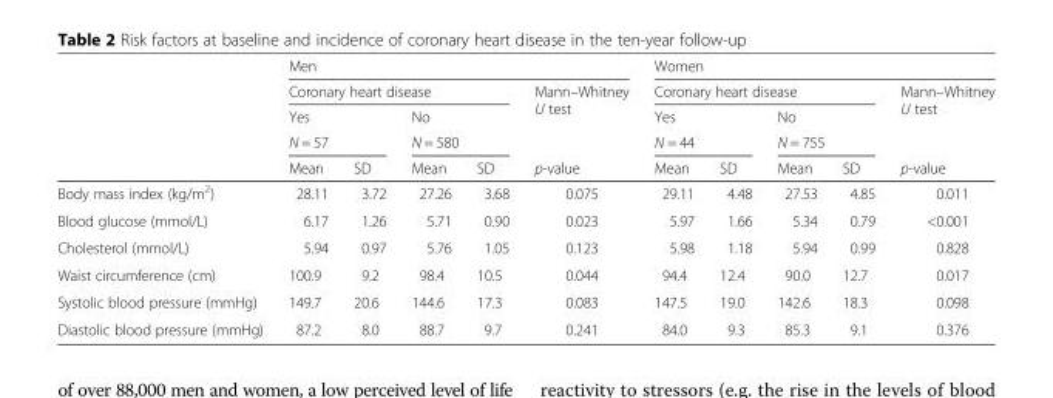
<table><thead><tr><td rowspan="5"></td><td colspan="5">Men</td><td colspan="5">Women</td></tr><tr><td colspan="4">Coronary heart disease</td><td rowspan="4">Mann–Whitney U test p-value</td><td colspan="4">Coronary heart disease</td><td rowspan="4">Mann–Whitney U test p-value</td></tr><tr><td rowspan="2" colspan="2">Yes N = 57</td><td rowspan="2" colspan="2">No N = 580</td><td rowspan="2" colspan="2">Yes N = 44</td><td rowspan="2" colspan="2">No N = 755</td></tr><tr></tr><tr><td>Mean</td><td>SD</td><td>Mean</td><td>SD</td><td>Mean</td><td>SD</td><td>Mean</td><td>SD</td></tr></thead><tbody><tr><td>Body mass index (kg/m<sup>2</sup>)</td><td>28.11</td><td>3.72</td><td>27.26</td><td>3.68</td><td>0.075</td><td>29.11</td><td>4.48</td><td>27.53</td><td>4.85</td><td>0.011</td></tr><tr><td>Blood glucose (mmol/L)</td><td>6.17</td><td>1.26</td><td>5.71</td><td>0.90</td><td>0.023</td><td>5.97</td><td>1.66</td><td>5.34</td><td>0.79</td><td>&lt;0.001</td></tr><tr><td>Cholesterol (mmol/L)</td><td>5.94</td><td>0.97</td><td>5.76</td><td>1.05</td><td>0.123</td><td>5.98</td><td>1.18</td><td>5.94</td><td>0.99</td><td>0.828</td></tr><tr><td>Waist circumference (cm)</td><td>100.9</td><td>9.2</td><td>98.4</td><td>10.5</td><td>0.044</td><td>94.4</td><td>12.4</td><td>90.0</td><td>12.7</td><td>0.017</td></tr><tr><td>Systolic blood pressure (mmHg)</td><td>149.7</td><td>20.6</td><td>144.6</td><td>17.3</td><td>0.083</td><td>147.5</td><td>19.0</td><td>142.6</td><td>18.3</td><td>0.098</td></tr><tr><td>Diastolic blood pressure (mmHg)</td><td>87.2</td><td>8.0</td><td>88.7</td><td>9.7</td><td>0.241</td><td>84.0</td><td>9.3</td><td>85.3</td><td>9.1</td><td>0.376</td></tr></tbody></table>